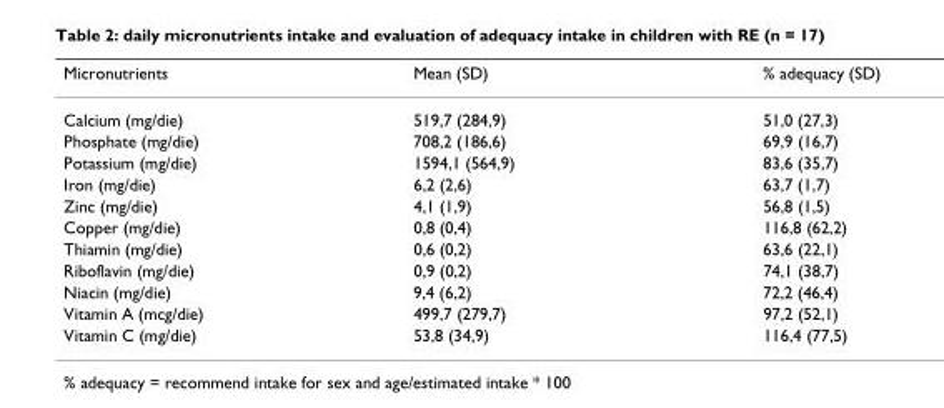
<table><thead><tr><td>Micronutrients</td><td>Mean (SD)</td><td>% adequacy (SD)</td></tr></thead><tbody><tr><td>Calcium (mg/die)</td><td>519,7 (284,9)</td><td>51,0 (27,3)</td></tr><tr><td>Phosphate (mg/die)</td><td>708,2 (186,6)</td><td>69,9 (16,7)</td></tr><tr><td>Potassium (mg/die)</td><td>1594,1 (564,9)</td><td>83,6 (35,7)</td></tr><tr><td>Iron (mg/die)</td><td>6,2 (2,6)</td><td>63,7 (1,7)</td></tr><tr><td>Zinc (mg/die)</td><td>4,1 (1,9)</td><td>56,8 (1,5)</td></tr><tr><td>Copper (mg/die)</td><td>0,8 (0,4)</td><td>116,8 (62,2)</td></tr><tr><td>Thiamin (mg/die)</td><td>0,6 (0,2)</td><td>63,6 (22,1)</td></tr><tr><td>Riboflavin (mg/die)</td><td>0,9 (0,2)</td><td>74,1 (38,7)</td></tr><tr><td>Niacin (mg/die)</td><td>9,4 (6,2)</td><td>72,2 (46,4)</td></tr><tr><td>Vitamin A (mcg/die)</td><td>499,7 (279,7)</td><td>97,2 (52,1)</td></tr><tr><td>Vitamin C (mg/die)</td><td>53,8 (34,9)</td><td>116,4 (77,5)</td></tr></tbody></table>